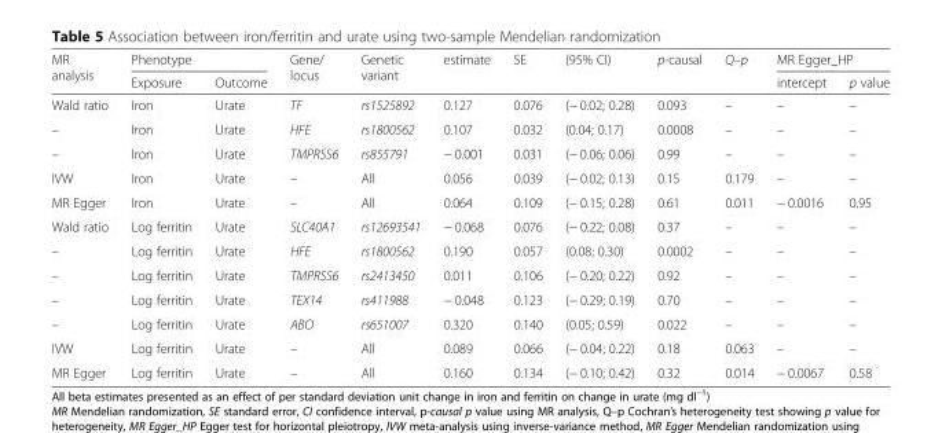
<table><thead><tr><td rowspan="2">MR analysis</td><td colspan="2">Phenotype</td><td rowspan="2">Gene/ locus</td><td rowspan="2">Genetic variant</td><td rowspan="2">estimate</td><td rowspan="2">SE</td><td rowspan="2">(95% CI)</td><td rowspan="2">p-causal</td><td rowspan="2">Q–p</td><td colspan="2">MR Egger_HP</td></tr><tr><td>Exposure</td><td>Outcome</td><td>intercept</td><td>p value</td></tr></thead><tbody><tr><td>Wald ratio</td><td>Iron</td><td>Urate</td><td>TF</td><td>rs1525892</td><td>0.127</td><td>0.076</td><td>(− 0.02; 0.28)</td><td>0.093</td><td>–</td><td>–</td><td>–</td></tr><tr><td>–</td><td>Iron</td><td>Urate</td><td>HFE</td><td>rs1800562</td><td>0.107</td><td>0.032</td><td>(0.04; 0.17)</td><td>0.0008</td><td>–</td><td>–</td><td>–</td></tr><tr><td>–</td><td>Iron</td><td>Urate</td><td>TMPRSS6</td><td>rs855791</td><td>− 0.001</td><td>0.031</td><td>(− 0.06; 0.06)</td><td>0.99</td><td>–</td><td>–</td><td>–</td></tr><tr><td>IVW</td><td>Iron</td><td>Urate</td><td>–</td><td>All</td><td>0.056</td><td>0.039</td><td>(− 0.02; 0.13)</td><td>0.15</td><td>0.179</td><td>–</td><td>–</td></tr><tr><td>MR Egger</td><td>Iron</td><td>Urate</td><td>–</td><td>All</td><td>0.064</td><td>0.109</td><td>(− 0.15; 0.28)</td><td>0.61</td><td>0.011</td><td>− 0.0016</td><td>0.95</td></tr><tr><td>Wald ratio</td><td>Log ferritin</td><td>Urate</td><td>SLC40A1</td><td>rs12693541</td><td>− 0.068</td><td>0.076</td><td>(− 0.22; 0.08)</td><td>0.37</td><td>–</td><td>–</td><td>–</td></tr><tr><td>–</td><td>Log ferritin</td><td>Urate</td><td>HFE</td><td>rs1800562</td><td>0.190</td><td>0.057</td><td>(0.08; 0.30)</td><td>0.0002</td><td>–</td><td>–</td><td>–</td></tr><tr><td>–</td><td>Log ferritin</td><td>Urate</td><td>TMPRSS6</td><td>rs2413450</td><td>0.011</td><td>0.106</td><td>(− 0.20; 0.22)</td><td>0.92</td><td>–</td><td>–</td><td>–</td></tr><tr><td>–</td><td>Log ferritin</td><td>Urate</td><td>TEX14</td><td>rs411988</td><td>− 0.048</td><td>0.123</td><td>(− 0.29; 0.19)</td><td>0.70</td><td>–</td><td>–</td><td>–</td></tr><tr><td>–</td><td>Log ferritin</td><td>Urate</td><td>ABO</td><td>rs651007</td><td>0.320</td><td>0.140</td><td>(0.05; 0.59)</td><td>0.022</td><td>–</td><td>–</td><td>–</td></tr><tr><td>IVW</td><td>Log ferritin</td><td>Urate</td><td>–</td><td>All</td><td>0.089</td><td>0.066</td><td>(− 0.04; 0.22)</td><td>0.18</td><td>0.063</td><td>–</td><td>–</td></tr><tr><td>MR Egger</td><td>Log ferritin</td><td>Urate</td><td>–</td><td>All</td><td>0.160</td><td>0.134</td><td>(− 0.10; 0.42)</td><td>0.32</td><td>0.014</td><td>− 0.0067</td><td>0.58</td></tr></tbody></table>